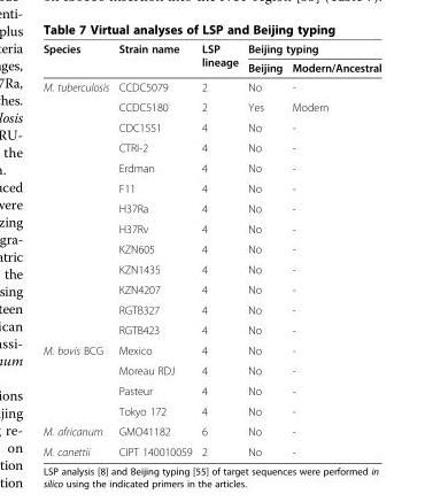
<table><thead><tr><td rowspan="2">Species</td><td rowspan="2">Strain name</td><td rowspan="2">LSP lineage</td><td colspan="2">Beijing typing</td></tr><tr><td>Beijing</td><td>Modern/Ancestral</td></tr></thead><tbody><tr><td rowspan="13">M. tuberculosis</td><td>CCDC5079</td><td>2</td><td>No</td><td>-</td></tr><tr><td>CCDC5180</td><td>2</td><td>Yes</td><td>Modern</td></tr><tr><td>CDC1551</td><td>4</td><td>No</td><td>-</td></tr><tr><td>CTRI-2</td><td>4</td><td>No</td><td>-</td></tr><tr><td>Erdman</td><td>4</td><td>No</td><td>-</td></tr><tr><td>F11</td><td>4</td><td>No</td><td>-</td></tr><tr><td>H37Ra</td><td>4</td><td>No</td><td>-</td></tr><tr><td>H37Rv</td><td>4</td><td>No</td><td>-</td></tr><tr><td>KZN605</td><td>4</td><td>No</td><td>-</td></tr><tr><td>KZN1435</td><td>4</td><td>No</td><td>-</td></tr><tr><td>KZN4207</td><td>4</td><td>No</td><td>-</td></tr><tr><td>RGTB327</td><td>4</td><td>No</td><td>-</td></tr><tr><td>RGTB423</td><td>4</td><td>No</td><td>-</td></tr><tr><td rowspan="4">M. bovis BCG</td><td>Mexico</td><td>4</td><td>No</td><td>-</td></tr><tr><td>Moreau RDJ</td><td>4</td><td>No</td><td>-</td></tr><tr><td>Pasteur</td><td>4</td><td>No</td><td>-</td></tr><tr><td>Tokyo 172</td><td>4</td><td>No</td><td>-</td></tr><tr><td>M. africanum</td><td>GMO41182</td><td>6</td><td>No</td><td>-</td></tr><tr><td>M. canettii</td><td>CIPT 140010059</td><td>2</td><td>No</td><td>-</td></tr></tbody></table>